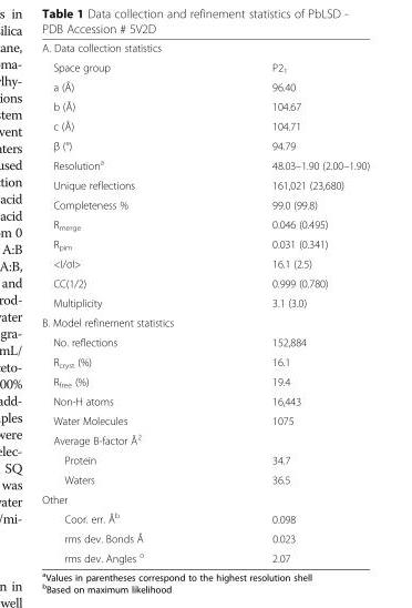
<table><tbody><tr><td colspan="2">A. Data collection statistics</td></tr><tr><td>Space group</td><td>P2<sub>1</sub></td></tr><tr><td>a (Å)</td><td>96.40</td></tr><tr><td>b (Å)</td><td>104.67</td></tr><tr><td>c (Å)</td><td>104.71</td></tr><tr><td>β (°)</td><td>94.79</td></tr><tr><td>Resolution<sup>a</sup></td><td>48.03–1.90 (2.00–1.90)</td></tr><tr><td>Unique reflections</td><td>161,021 (23,680)</td></tr><tr><td>Completeness %</td><td>99.0 (99.8)</td></tr><tr><td>R<sub>merge</sub></td><td>0.046 (0.495)</td></tr><tr><td>R<sub>pim</sub></td><td>0.031 (0.341)</td></tr><tr><td>&lt;I/σI&gt;</td><td>16.1 (2.5)</td></tr><tr><td>CC(1/2)</td><td>0.999 (0.780)</td></tr><tr><td>Multiplicity</td><td>3.1 (3.0)</td></tr><tr><td colspan="2">B. Model refinement statistics</td></tr><tr><td>No. reflections</td><td>152,884</td></tr><tr><td>R<sub>cryst</sub> (%)</td><td>16.1</td></tr><tr><td>R<sub>free</sub> (%)</td><td>19.4</td></tr><tr><td>Non-H atoms</td><td>16,443</td></tr><tr><td>Water Molecules</td><td>1075</td></tr><tr><td colspan="2">Average B-factor Å<sup>2</sup></td></tr><tr><td>Protein</td><td>34.7</td></tr><tr><td>Waters</td><td>36.5</td></tr><tr><td colspan="2">Other</td></tr><tr><td>Coor. err. Å<sup>b</sup></td><td>0.098</td></tr><tr><td>rms dev. Bonds Å</td><td>0.023</td></tr><tr><td>rms dev. Angles <sup>o</sup></td><td>2.07</td></tr></tbody></table>